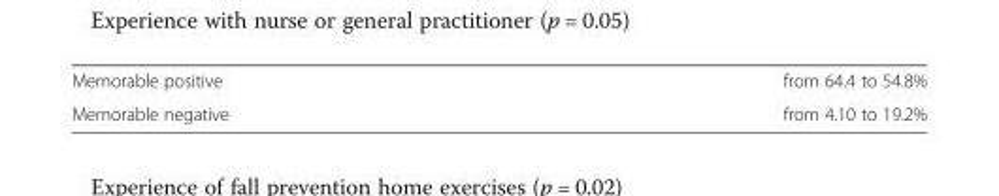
<table><tbody><tr><td>Memorable positive</td><td>from 64.4 to 54.8%</td></tr><tr><td>Memorable negative</td><td>from 4.10 to 19.2%</td></tr></tbody></table>